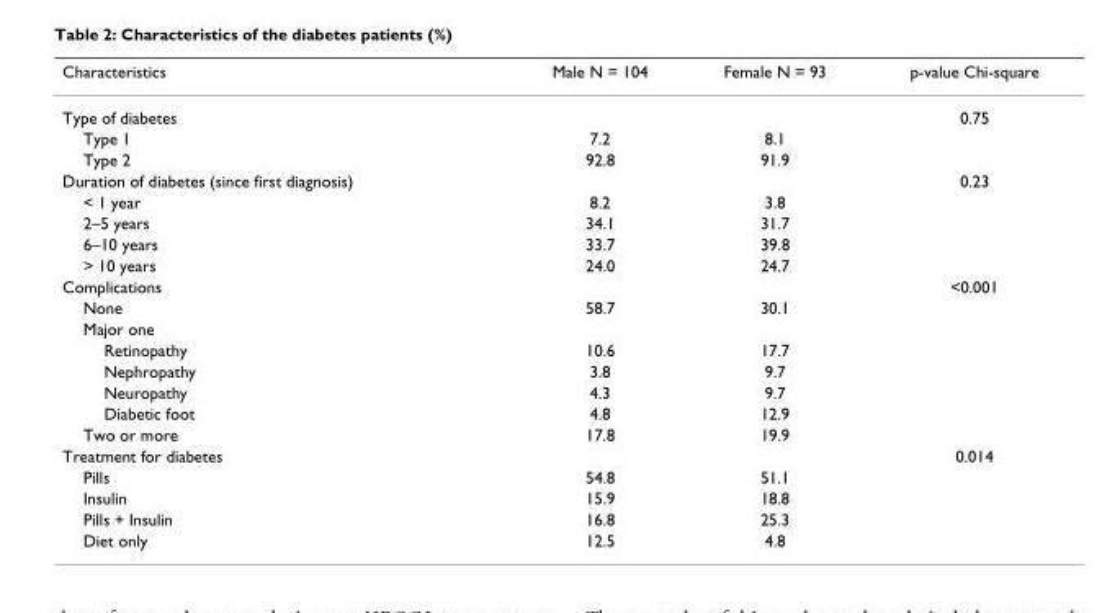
<table><thead><tr><td>Characteristics</td><td>Male N = 104</td><td>Female N = 93</td><td>p-value Chi-square</td></tr></thead><tbody><tr><td>Type of diabetes</td><td></td><td></td><td>0.75</td></tr><tr><td>Type 1</td><td>7.2</td><td>8.1</td><td></td></tr><tr><td>Type 2</td><td>92.8</td><td>91.9</td><td></td></tr><tr><td>Duration of diabetes (since first diagnosis)</td><td></td><td></td><td>0.23</td></tr><tr><td>&lt; 1 year</td><td>8.2</td><td>3.8</td><td></td></tr><tr><td>2–5 years</td><td>34.1</td><td>31.7</td><td></td></tr><tr><td>6–10 years</td><td>33.7</td><td>39.8</td><td></td></tr><tr><td>&gt; 10 years</td><td>24.0</td><td>24.7</td><td></td></tr><tr><td>Complications</td><td></td><td></td><td>&lt;0.001</td></tr><tr><td>None</td><td>58.7</td><td>30.1</td><td></td></tr><tr><td colspan="4">Major one</td></tr><tr><td>Retinopathy</td><td>10.6</td><td>17.7</td><td></td></tr><tr><td>Nephropathy</td><td>3.8</td><td>9.7</td><td></td></tr><tr><td>Neuropathy</td><td>4.3</td><td>9.7</td><td></td></tr><tr><td>Diabetic foot</td><td>4.8</td><td>12.9</td><td></td></tr><tr><td>Two or more</td><td>17.8</td><td>19.9</td><td></td></tr><tr><td>Treatment for diabetes</td><td></td><td></td><td>0.014</td></tr><tr><td>Pills</td><td>54.8</td><td>51.1</td><td></td></tr><tr><td>Insulin</td><td>15.9</td><td>18.8</td><td></td></tr><tr><td>Pills + Insulin</td><td>16.8</td><td>25.3</td><td></td></tr><tr><td>Diet only</td><td>12.5</td><td>4.8</td><td></td></tr></tbody></table>